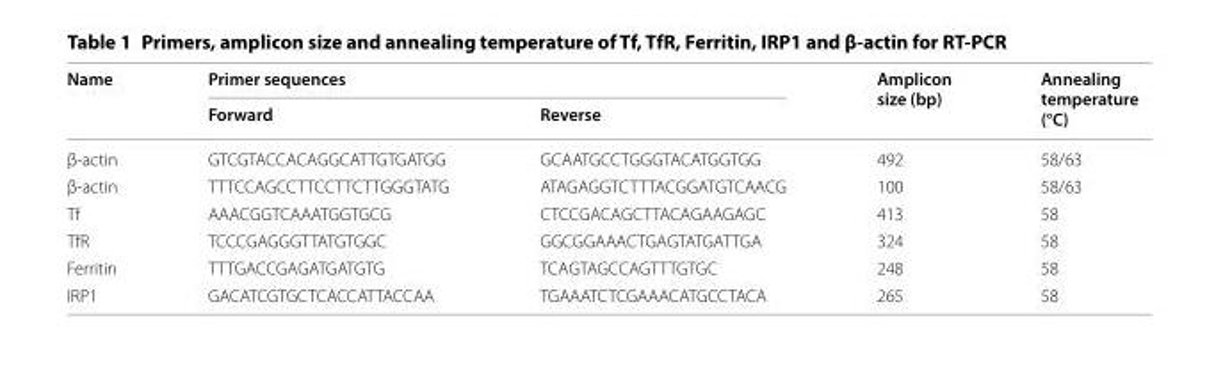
<table><thead><tr><td rowspan="2">Name</td><td colspan="2">Primer sequences</td><td rowspan="2">Amplicon size (bp)</td><td rowspan="2">Annealing temperature (°C)</td></tr><tr><td>Forward</td><td>Reverse</td></tr></thead><tbody><tr><td>β-actin</td><td>GTC GTA CCA CAG GCA TTG TGA TGG</td><td>GCA ATG CCT GGG TAC ATG GTGG</td><td>492</td><td>58/63</td></tr><tr><td>β-actin</td><td>TTT CCA GCC TTC CTT CTT GGG TAT G</td><td>ATA GAG GTC TTT ACG GAT GTC AAC G</td><td>100</td><td>58/63</td></tr><tr><td>Tf</td><td>AAA CGG TCA AAT GGT GCG</td><td>CTC CGA CAG CTT ACA GAA GAGC</td><td>413</td><td>58</td></tr><tr><td>TfR</td><td>TCC CGA GGG TTA TGT GGC</td><td>GGC GGA AAC TGA GTA TGA TTGA</td><td>324</td><td>58</td></tr><tr><td>Ferritin</td><td>TTT GAC CGA GAT GAT GTG</td><td>TCA GTA GCC AGT TTG TGC</td><td>248</td><td>58</td></tr><tr><td>IRP1</td><td>GAC ATC GTG CTC ACC ATT ACCAA</td><td>TGA AAT CTC GAA ACA TGC CTACA</td><td>265</td><td>58</td></tr></tbody></table>